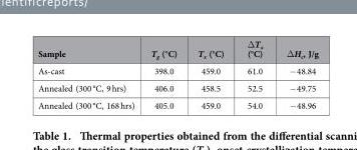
<table><thead><tr><td>Sample</td><td>T<sub>g</sub> (°C)</td><td>T<sub>x</sub> (°C)</td><td>∆T<sub>x</sub> (°C)</td><td>∆H<sub>c</sub>, J/g</td></tr></thead><tbody><tr><td>As-cast</td><td>398.0</td><td>459.0</td><td>61.0</td><td>− 48.84</td></tr><tr><td>Annealed (300 °C, 9 hrs)</td><td>406.0</td><td>458.5</td><td>52.5</td><td>− 49.75</td></tr><tr><td>Annealed (300 °C, 168 hrs)</td><td>405.0</td><td>459.0</td><td>54.0</td><td>− 48.96</td></tr></tbody></table>